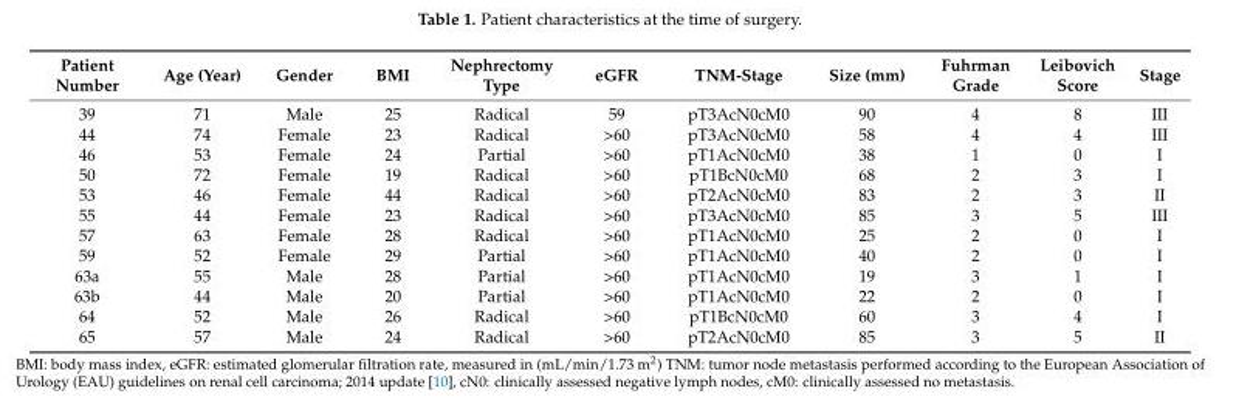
<table><thead><tr><td>Patient Number</td><td>Age (Year)</td><td>Gender</td><td>BMI</td><td>Nephrectomy Type</td><td>eGFR</td><td>TNM-Stage</td><td>Size (mm)</td><td>Fuhrman Grade</td><td>Leibovich Score</td><td>Stage</td></tr></thead><tbody><tr><td>39</td><td>71</td><td>Male</td><td>25</td><td>Radical</td><td>59</td><td>pT3AcN0cM0</td><td>90</td><td>4</td><td>8</td><td>III</td></tr><tr><td>44</td><td>74</td><td>Female</td><td>23</td><td>Radical</td><td>&gt;60</td><td>pT3AcN0cM0</td><td>58</td><td>4</td><td>4</td><td>III</td></tr><tr><td>46</td><td>53</td><td>Female</td><td>24</td><td>Partial</td><td>&gt;60</td><td>pT1AcN0cM0</td><td>38</td><td>1</td><td>0</td><td>I</td></tr><tr><td>50</td><td>72</td><td>Female</td><td>19</td><td>Radical</td><td>&gt;60</td><td>pT1BcN0cM0</td><td>68</td><td>2</td><td>3</td><td>I</td></tr><tr><td>53</td><td>46</td><td>Female</td><td>44</td><td>Radical</td><td>&gt;60</td><td>pT2AcN0cM0</td><td>83</td><td>2</td><td>3</td><td>II</td></tr><tr><td>55</td><td>44</td><td>Female</td><td>23</td><td>Radical</td><td>&gt;60</td><td>pT3AcN0cM0</td><td>85</td><td>3</td><td>5</td><td>III</td></tr><tr><td>57</td><td>63</td><td>Female</td><td>28</td><td>Radical</td><td>&gt;60</td><td>pT1AcN0cM0</td><td>25</td><td>2</td><td>0</td><td>I</td></tr><tr><td>59</td><td>52</td><td>Female</td><td>29</td><td>Partial</td><td>&gt;60</td><td>pT1AcN0cM0</td><td>40</td><td>2</td><td>0</td><td>I</td></tr><tr><td>63a</td><td>55</td><td>Male</td><td>28</td><td>Partial</td><td>&gt;60</td><td>pT1AcN0cM0</td><td>19</td><td>3</td><td>1</td><td>I</td></tr><tr><td>63b</td><td>44</td><td>Male</td><td>20</td><td>Partial</td><td>&gt;60</td><td>pT1AcN0cM0</td><td>22</td><td>2</td><td>0</td><td>I</td></tr><tr><td>64</td><td>52</td><td>Male</td><td>26</td><td>Radical</td><td>&gt;60</td><td>pT1BcN0cM0</td><td>60</td><td>3</td><td>4</td><td>I</td></tr><tr><td>65</td><td>57</td><td>Male</td><td>24</td><td>Radical</td><td>&gt;60</td><td>pT2AcN0cM0</td><td>85</td><td>3</td><td>5</td><td>II</td></tr></tbody></table>